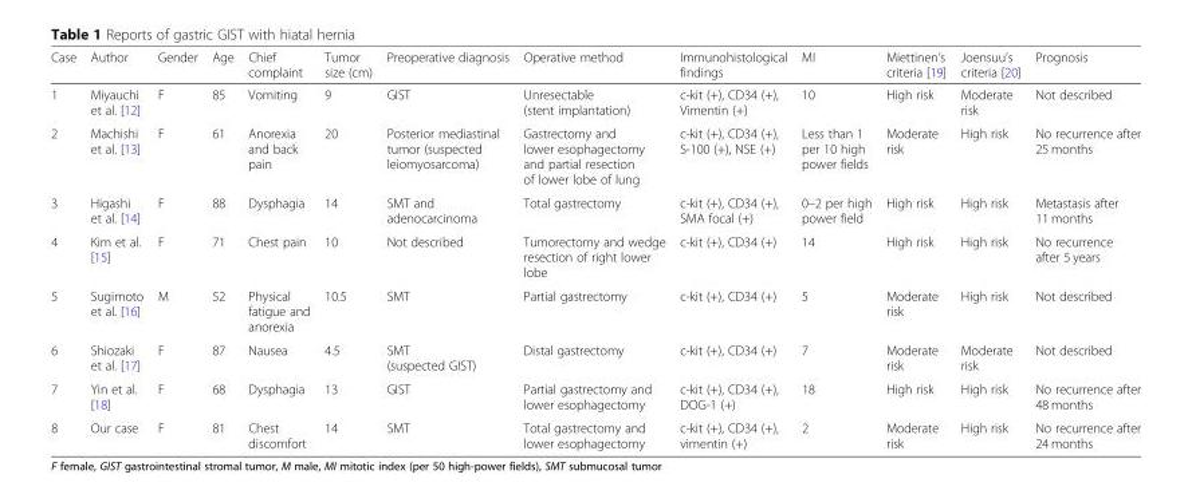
<table><thead><tr><td>Case</td><td>Author</td><td>Gender</td><td>Age</td><td>Chief complaint</td><td>Tumor size (cm)</td><td>Preoperative diagnosis</td><td>Operative method</td><td>Immunohistological findings</td><td>MI</td><td>Miettinen’s criteria [19]</td><td>Joensuu’s criteria [20]</td><td>Prognosis</td></tr></thead><tbody><tr><td>1</td><td>Miyauchi et al. [12]</td><td>F</td><td>85</td><td>Vomiting</td><td>9</td><td>GIST</td><td>Unresectable (stent implantation)</td><td>c-kit (+), CD34 (+), Vimentin (+)</td><td>10</td><td>High risk</td><td>Moderate risk</td><td>Not described</td></tr><tr><td>2</td><td>Machishi et al. [13]</td><td>F</td><td>61</td><td>Anorexia and back pain</td><td>20</td><td>Posterior mediastinal tumor (suspected leiomyosarcoma)</td><td>Gastrectomy and lower esophagectomy and partial resection of lower lobe of lung</td><td>c-kit (+), CD34 (+), S-100 (+), NSE (+)</td><td>Less than 1 per 10 high power fields</td><td>Moderate risk</td><td>High risk</td><td>No recurrence after 25 months</td></tr><tr><td>3</td><td>Higashi et al. [14]</td><td>F</td><td>88</td><td>Dysphagia</td><td>14</td><td>SMT and adenocarcinoma</td><td>Total gastrectomy</td><td>c-kit (+), CD34 (+), SMA focal (+)</td><td>0–2 per high power field</td><td>High risk</td><td>High risk</td><td>Metastasis after 11 months</td></tr><tr><td>4</td><td>Kim et al. [15]</td><td>F</td><td>71</td><td>Chest pain</td><td>10</td><td>Not described</td><td>Tumorectomy and wedge resection of right lower lobe</td><td>c-kit (+), CD34 (+)</td><td>14</td><td>High risk</td><td>High risk</td><td>No recurrence after 5 years</td></tr><tr><td>5</td><td>Sugimoto et al. [16]</td><td>M</td><td>52</td><td>Physical fatigue and anorexia</td><td>10.5</td><td>SMT</td><td>Partial gastrectomy</td><td>c-kit (+), CD34 (+)</td><td>5</td><td>Moderate risk</td><td>High risk</td><td>Not described</td></tr><tr><td>6</td><td>Shiozaki et al. [17]</td><td>F</td><td>87</td><td>Nausea</td><td>4.5</td><td>SMT (suspected GIST)</td><td>Distal gastrectomy</td><td>c-kit (+), CD34 (+)</td><td>7</td><td>Moderate risk</td><td>Moderate risk</td><td>Not described</td></tr><tr><td>7</td><td>Yin et al. [18]</td><td>F</td><td>68</td><td>Dysphagia</td><td>13</td><td>GIST</td><td>Partial gastrectomy and lower esophagectomy</td><td>c-kit (+), CD34 (+), DOG-1 (+)</td><td>18</td><td>High risk</td><td>High risk</td><td>No recurrence after 48 months</td></tr><tr><td>8</td><td>Our case</td><td>F</td><td>81</td><td>Chest discomfort</td><td>14</td><td>SMT</td><td>Total gastrectomy and lower esophagectomy</td><td>c-kit (+), CD34 (+), vimentin (+)</td><td>2</td><td>Moderate risk</td><td>High risk</td><td>No recurrence after 24 months</td></tr></tbody></table>